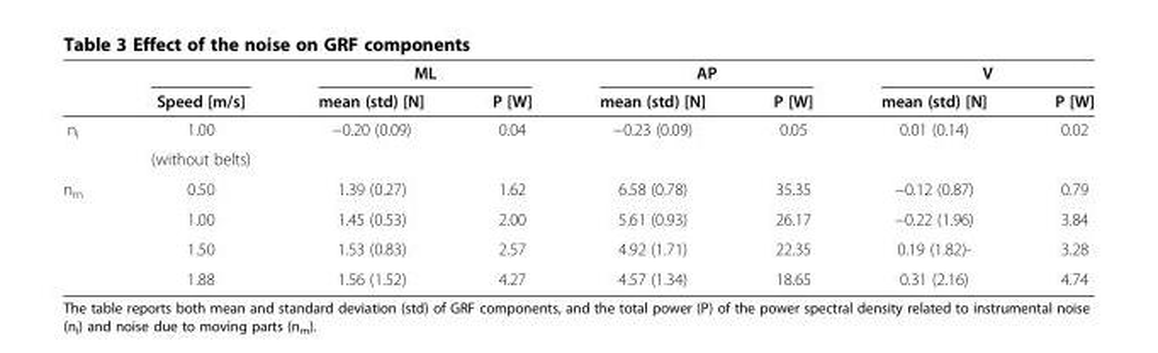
<table><thead><tr><td rowspan="2"></td><td rowspan="2">Speed [m/s]</td><td colspan="2">ML</td><td colspan="2">AP</td><td colspan="2">V</td></tr><tr><td>mean (std) [N]</td><td>P [W]</td><td>mean (std) [N]</td><td>P [W]</td><td>mean (std) [N]</td><td>P [W]</td></tr></thead><tbody><tr><td rowspan="2">n<sub>i</sub></td><td>1.00</td><td rowspan="2">−0.20 (0.09)</td><td rowspan="2">0.04</td><td rowspan="2">−0.23 (0.09)</td><td rowspan="2">0.05</td><td rowspan="2">0.01 (0.14)</td><td rowspan="2">0.02</td></tr><tr><td>(without belts)</td></tr><tr><td rowspan="4">n<sub>m</sub></td><td>0.50</td><td>1.39 (0.27)</td><td>1.62</td><td>6.58 (0.78)</td><td>35.35</td><td>−0.12 (0.87)</td><td>0.79</td></tr><tr><td>1.00</td><td>1.45 (0.53)</td><td>2.00</td><td>5.61 (0.93)</td><td>26.17</td><td>−0.22 (1.96)</td><td>3.84</td></tr><tr><td>1.50</td><td>1.53 (0.83)</td><td>2.57</td><td>4.92 (1.71)</td><td>22.35</td><td>0.19 (1.82)-</td><td>3.28</td></tr><tr><td>1.88</td><td>1.56 (1.52)</td><td>4.27</td><td>4.57 (1.34)</td><td>18.65</td><td>0.31 (2.16)</td><td>4.74</td></tr></tbody></table>